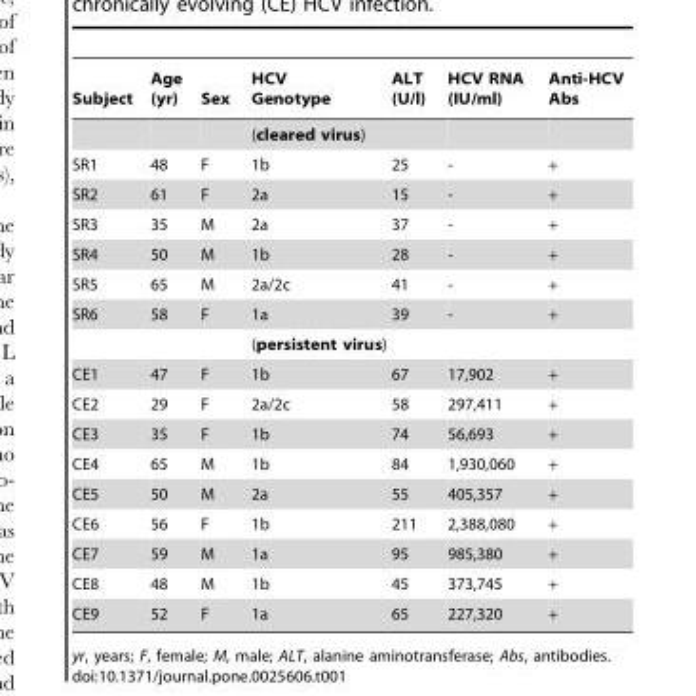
<table><thead><tr><td>Subject</td><td>Age (yr)</td><td>Sex</td><td>HCV Genotype</td><td>ALT (U/l)</td><td>HCV RNA (IU/ml)</td><td>Anti-HCV Abs</td></tr></thead><tbody><tr><td></td><td></td><td></td><td>(cleared virus)</td><td></td><td></td><td></td></tr><tr><td>SR1</td><td>48</td><td>F</td><td>1b</td><td>25</td><td>-</td><td>+</td></tr><tr><td>SR2</td><td>61</td><td>F</td><td>2a</td><td>15</td><td>-</td><td>+</td></tr><tr><td>SR3</td><td>35</td><td>M</td><td>2a</td><td>37</td><td>-</td><td>+</td></tr><tr><td>SR4</td><td>50</td><td>M</td><td>1b</td><td>28</td><td>-</td><td>+</td></tr><tr><td>SR5</td><td>65</td><td>M</td><td>2a/2c</td><td>41</td><td>-</td><td>+</td></tr><tr><td rowspan="2">SR6</td><td>58</td><td>F</td><td>1a</td><td>39</td><td>-</td><td>+</td></tr><tr><td></td><td></td><td>(persistent virus)</td><td></td><td></td><td></td></tr><tr><td>CE1</td><td>47</td><td>F</td><td>1b</td><td>67</td><td>17,902</td><td>+</td></tr><tr><td>CE2</td><td>29</td><td>F</td><td>2a/2c</td><td>58</td><td>297,411</td><td>+</td></tr><tr><td>CE3</td><td>35</td><td>F</td><td>1b</td><td>74</td><td>56,693</td><td>+</td></tr><tr><td>CE4</td><td>65</td><td>M</td><td>1b</td><td>84</td><td>1,930,060</td><td>+</td></tr><tr><td>CE5</td><td>50</td><td>M</td><td>2a</td><td>55</td><td>405,357</td><td>+</td></tr><tr><td>CE6</td><td>56</td><td>F</td><td>1b</td><td>211</td><td>2,388,080</td><td>+</td></tr><tr><td>CE7</td><td>59</td><td>M</td><td>1a</td><td>95</td><td>985,380</td><td>+</td></tr><tr><td>CE8</td><td>48</td><td>M</td><td>1b</td><td>45</td><td>373,745</td><td>+</td></tr><tr><td>CE9</td><td>52</td><td>F</td><td>1a</td><td>65</td><td>227,320</td><td>+</td></tr></tbody></table>